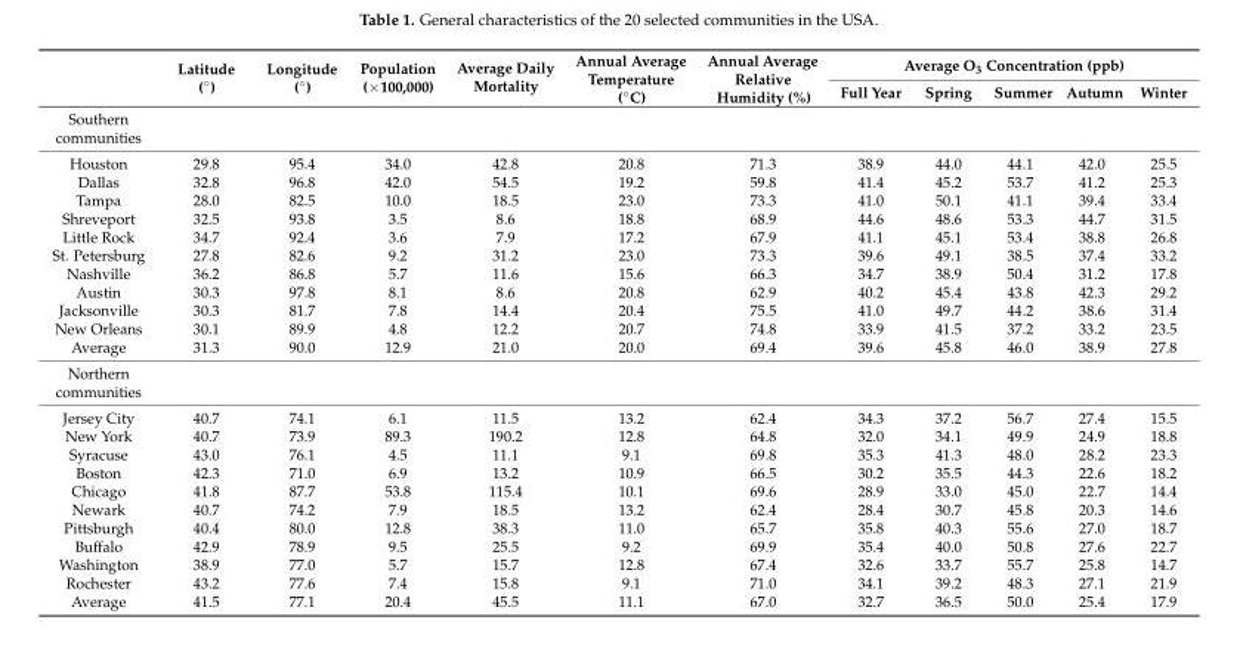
<table><thead><tr><td rowspan="2"></td><td rowspan="2">Latitude (◦)</td><td rowspan="2">Longitude (◦)</td><td rowspan="2">Population (×100,000)</td><td rowspan="2">Average Daily Mortality</td><td rowspan="2">Annual Average Temperature (◦C)</td><td rowspan="2">Annual Average Relative Humidity (%)</td><td colspan="5">Average O<sub>3</sub> Concentration (ppb)</td></tr><tr><td>Full Year</td><td>Spring</td><td>Summer</td><td>Autumn</td><td>Winter</td></tr></thead><tbody><tr><td colspan="12">Southern communities</td></tr><tr><td>Houston</td><td>29.8</td><td>95.4</td><td>34.0</td><td>42.8</td><td>20.8</td><td>71.3</td><td>38.9</td><td>44.0</td><td>44.1</td><td>42.0</td><td>25.5</td></tr><tr><td>Dallas</td><td>32.8</td><td>96.8</td><td>42.0</td><td>54.5</td><td>19.2</td><td>59.8</td><td>41.4</td><td>45.2</td><td>53.7</td><td>41.2</td><td>25.3</td></tr><tr><td>Tampa</td><td>28.0</td><td>82.5</td><td>10.0</td><td>18.5</td><td>23.0</td><td>73.3</td><td>41.0</td><td>50.1</td><td>41.1</td><td>39.4</td><td>33.4</td></tr><tr><td>Shreveport</td><td>32.5</td><td>93.8</td><td>3.5</td><td>8.6</td><td>18.8</td><td>68.9</td><td>44.6</td><td>48.6</td><td>53.3</td><td>44.7</td><td>31.5</td></tr><tr><td>Little Rock</td><td>34.7</td><td>92.4</td><td>3.6</td><td>7.9</td><td>17.2</td><td>67.9</td><td>41.1</td><td>45.1</td><td>53.4</td><td>38.8</td><td>26.8</td></tr><tr><td>St. Petersburg</td><td>27.8</td><td>82.6</td><td>9.2</td><td>31.2</td><td>23.0</td><td>73.3</td><td>39.6</td><td>49.1</td><td>38.5</td><td>37.4</td><td>33.2</td></tr><tr><td>Nashville</td><td>36.2</td><td>86.8</td><td>5.7</td><td>11.6</td><td>15.6</td><td>66.3</td><td>34.7</td><td>38.9</td><td>50.4</td><td>31.2</td><td>17.8</td></tr><tr><td>Austin</td><td>30.3</td><td>97.8</td><td>8.1</td><td>8.6</td><td>20.8</td><td>62.9</td><td>40.2</td><td>45.4</td><td>43.8</td><td>42.3</td><td>29.2</td></tr><tr><td>Jacksonville</td><td>30.3</td><td>81.7</td><td>7.8</td><td>14.4</td><td>20.4</td><td>75.5</td><td>41.0</td><td>49.7</td><td>44.2</td><td>38.6</td><td>31.4</td></tr><tr><td>New Orleans</td><td>30.1</td><td>89.9</td><td>4.8</td><td>12.2</td><td>20.7</td><td>74.8</td><td>33.9</td><td>41.5</td><td>37.2</td><td>33.2</td><td>23.5</td></tr><tr><td>Average</td><td>31.3</td><td>90.0</td><td>12.9</td><td>21.0</td><td>20.0</td><td>69.4</td><td>39.6</td><td>45.8</td><td>46.0</td><td>38.9</td><td>27.8</td></tr><tr><td colspan="12">Northern communities</td></tr><tr><td>Jersey City</td><td>40.7</td><td>74.1</td><td>6.1</td><td>11.5</td><td>13.2</td><td>62.4</td><td>34.3</td><td>37.2</td><td>56.7</td><td>27.4</td><td>15.5</td></tr><tr><td>New York</td><td>40.7</td><td>73.9</td><td>89.3</td><td>190.2</td><td>12.8</td><td>64.8</td><td>32.0</td><td>34.1</td><td>49.9</td><td>24.9</td><td>18.8</td></tr><tr><td>Syracuse</td><td>43.0</td><td>76.1</td><td>4.5</td><td>11.1</td><td>9.1</td><td>69.8</td><td>35.3</td><td>41.3</td><td>48.0</td><td>28.2</td><td>23.3</td></tr><tr><td>Boston</td><td>42.3</td><td>71.0</td><td>6.9</td><td>13.2</td><td>10.9</td><td>66.5</td><td>30.2</td><td>35.5</td><td>44.3</td><td>22.6</td><td>18.2</td></tr><tr><td>Chicago</td><td>41.8</td><td>87.7</td><td>53.8</td><td>115.4</td><td>10.1</td><td>69.6</td><td>28.9</td><td>33.0</td><td>45.0</td><td>22.7</td><td>14.4</td></tr><tr><td>Newark</td><td>40.7</td><td>74.2</td><td>7.9</td><td>18.5</td><td>13.2</td><td>62.4</td><td>28.4</td><td>30.7</td><td>45.8</td><td>20.3</td><td>14.6</td></tr><tr><td>Pittsburgh</td><td>40.4</td><td>80.0</td><td>12.8</td><td>38.3</td><td>11.0</td><td>65.7</td><td>35.8</td><td>40.3</td><td>55.6</td><td>27.0</td><td>18.7</td></tr><tr><td>Buffalo</td><td>42.9</td><td>78.9</td><td>9.5</td><td>25.5</td><td>9.2</td><td>69.9</td><td>35.4</td><td>40.0</td><td>50.8</td><td>27.6</td><td>22.7</td></tr><tr><td>Washington</td><td>38.9</td><td>77.0</td><td>5.7</td><td>15.7</td><td>12.8</td><td>67.4</td><td>32.6</td><td>33.7</td><td>55.7</td><td>25.8</td><td>14.7</td></tr><tr><td>Rochester</td><td>43.2</td><td>77.6</td><td>7.4</td><td>15.8</td><td>9.1</td><td>71.0</td><td>34.1</td><td>39.2</td><td>48.3</td><td>27.1</td><td>21.9</td></tr><tr><td>Average</td><td>41.5</td><td>77.1</td><td>20.4</td><td>45.5</td><td>11.1</td><td>67.0</td><td>32.7</td><td>36.5</td><td>50.0</td><td>25.4</td><td>17.9</td></tr></tbody></table>